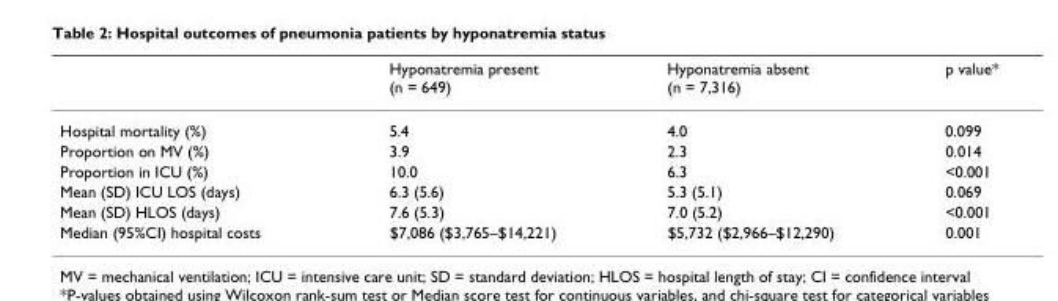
<table><thead><tr><td></td><td>Hyponatremia present (n = 649)</td><td>Hyponatremia absent (n = 7,316)</td><td>p value*</td></tr></thead><tbody><tr><td>Hospital mortality (%)</td><td>5.4</td><td>4.0</td><td>0.099</td></tr><tr><td>Proportion on MV (%)</td><td>3.9</td><td>2.3</td><td>0.014</td></tr><tr><td>Proportion in ICU (%)</td><td>10.0</td><td>6.3</td><td>&lt;0.001</td></tr><tr><td>Mean (SD) ICU LOS (days)</td><td>6.3 (5.6)</td><td>5.3 (5.1)</td><td>0.069</td></tr><tr><td>Mean (SD) HLOS (days)</td><td>7.6 (5.3)</td><td>7.0 (5.2)</td><td>&lt;0.001</td></tr><tr><td>Median (95%CI) hospital costs</td><td>$7,086 ($3,765–$14,221)</td><td>$5,732 ($2,966–$12,290)</td><td>0.001</td></tr></tbody></table>